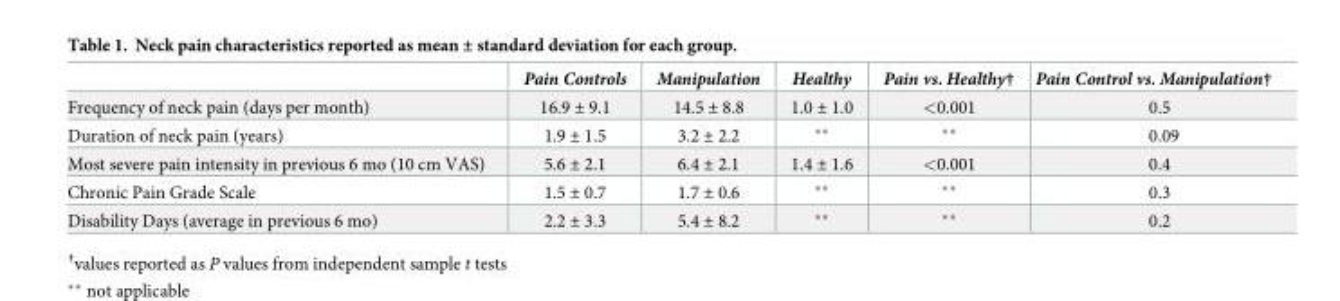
<table><thead><tr><td></td><td>Pain Controls</td><td>Manipulation</td><td>Healthy</td><td>Pain vs. Healthy†</td><td>Pain Control vs. Manipulation†</td></tr></thead><tbody><tr><td>Frequency of neck pain (days per month)</td><td>16.9 ± 9.1</td><td>14.5 ± 8.8</td><td>1.0 ± 1.0</td><td>&lt;0.001</td><td>0.5</td></tr><tr><td>Duration of neck pain (years)</td><td>1.9 ± 1.5</td><td>3.2 ± 2.2</td><td>**</td><td>**</td><td>0.09</td></tr><tr><td>Most severe pain intensity in previous 6 mo (10 cm VAS)</td><td>5.6 ± 2.1</td><td>6.4 ± 2.1</td><td>1.4 ± 1.6</td><td>&lt;0.001</td><td>0.4</td></tr><tr><td>Chronic Pain Grade Scale</td><td>1.5 ± 0.7</td><td>1.7 ± 0.6</td><td>**</td><td>**</td><td>0.3</td></tr><tr><td>Disability Days (average in previous 6 mo)</td><td>2.2 ± 3.3</td><td>5.4 ± 8.2</td><td>**</td><td>**</td><td>0.2</td></tr></tbody></table>